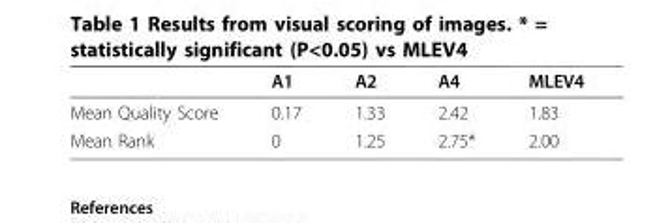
<table><thead><tr><td></td><td>A1</td><td>A2</td><td>A4</td><td>MLEV4</td></tr></thead><tbody><tr><td>Mean Quality Score</td><td>0.17</td><td>1.33</td><td>2.42</td><td>1.83</td></tr><tr><td>Mean Rank</td><td>0</td><td>1.25</td><td>2.75*</td><td>2.00</td></tr></tbody></table>